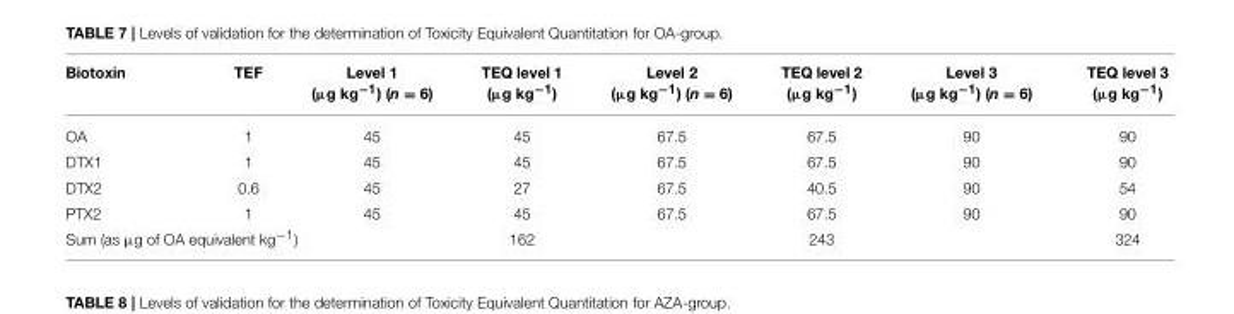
<table><thead><tr><td>Biotoxin</td><td>TEF</td><td>Level 1 (µg kg<sup>−1</sup>) (n = 6)</td><td>TEQ level 1 (µg kg<sup>−1</sup>)</td><td>Level 2 (µg kg<sup>−1</sup>) (n = 6)</td><td>TEQ level 2 (µg kg<sup>−1</sup>)</td><td>Level 3 (µg kg<sup>−1</sup>) (n = 6)</td><td>TEQ level 3 (µg kg<sup>−1</sup>)</td></tr></thead><tbody><tr><td>OA</td><td>1</td><td>45</td><td>45</td><td>67.5</td><td>67.5</td><td>90</td><td>90</td></tr><tr><td>DTX1</td><td>1</td><td>45</td><td>45</td><td>67.5</td><td>67.5</td><td>90</td><td>90</td></tr><tr><td>DTX2</td><td>0.6</td><td>45</td><td>27</td><td>67.5</td><td>40.5</td><td>90</td><td>54</td></tr><tr><td>PTX2</td><td>1</td><td>45</td><td>45</td><td>67.5</td><td>67.5</td><td>90</td><td>90</td></tr><tr><td colspan="3">Sum (as µg of OA equivalent kg<sup>−1</sup>)</td><td>162</td><td></td><td>243</td><td></td><td>324</td></tr></tbody></table>